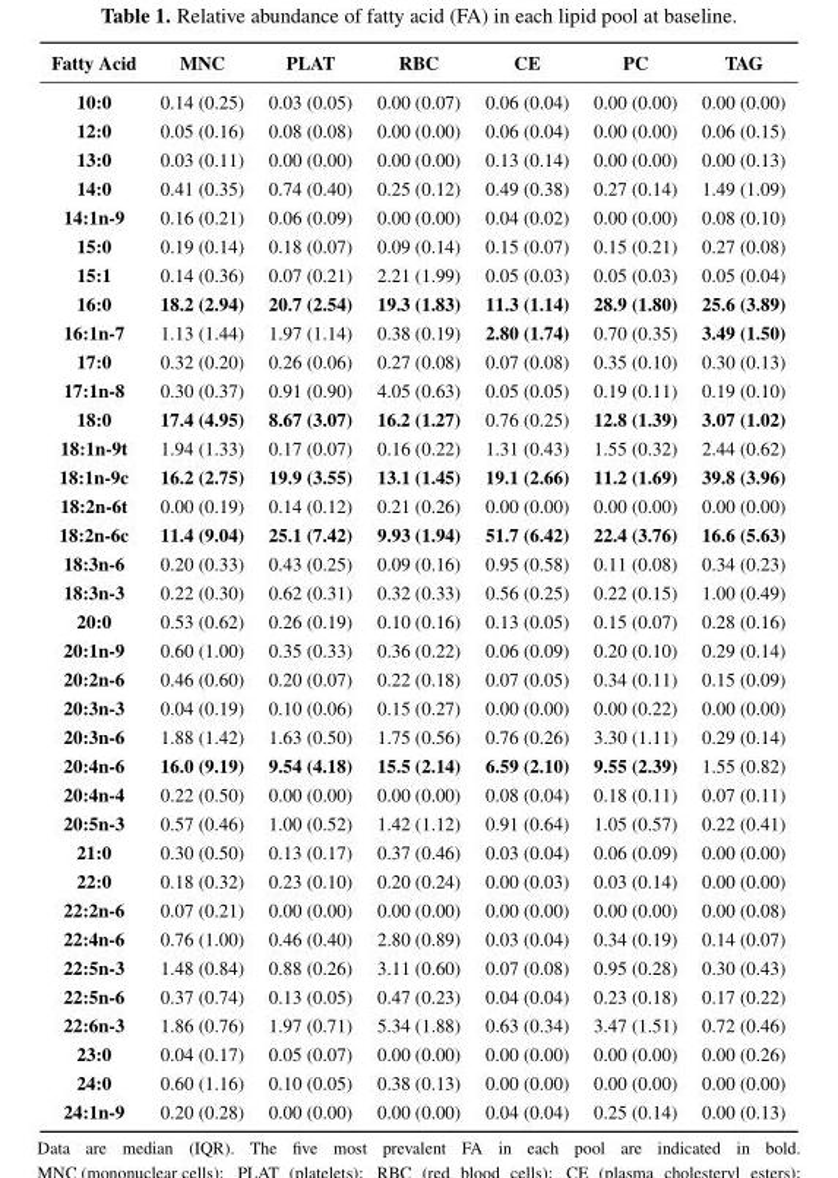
<table><thead><tr><td>Fatty Acid</td><td>MNC</td><td>PLAT</td><td>RBC</td><td>CE</td><td>PC</td><td>TAG</td></tr></thead><tbody><tr><td>10:0</td><td>0.14 (0.25)</td><td>0.03 (0.05)</td><td>0.00 (0.07)</td><td>0.06 (0.04)</td><td>0.00 (0.00)</td><td>0.00 (0.00)</td></tr><tr><td>12:0</td><td>0.05 (0.16)</td><td>0.08 (0.08)</td><td>0.00 (0.00)</td><td>0.06 (0.04)</td><td>0.00 (0.00)</td><td>0.06 (0.15)</td></tr><tr><td>13:0</td><td>0.03 (0.11)</td><td>0.00 (0.00)</td><td>0.00 (0.00)</td><td>0.13 (0.14)</td><td>0.00 (0.00)</td><td>0.00 (0.13)</td></tr><tr><td>14:0</td><td>0.41 (0.35)</td><td>0.74 (0.40)</td><td>0.25 (0.12)</td><td>0.49 (0.38)</td><td>0.27 (0.14)</td><td>1.49 (1.09)</td></tr><tr><td>14:1n-9</td><td>0.16 (0.21)</td><td>0.06 (0.09)</td><td>0.00 (0.00)</td><td>0.04 (0.02)</td><td>0.00 (0.00)</td><td>0.08 (0.10)</td></tr><tr><td>15:0</td><td>0.19 (0.14)</td><td>0.18 (0.07)</td><td>0.09 (0.14)</td><td>0.15 (0.07)</td><td>0.15 (0.21)</td><td>0.27 (0.08)</td></tr><tr><td>15:1</td><td>0.14 (0.36)</td><td>0.07 (0.21)</td><td>2.21 (1.99)</td><td>0.05 (0.03)</td><td>0.05 (0.03)</td><td>0.05 (0.04)</td></tr><tr><td>16:0</td><td>18.2 (2.94)</td><td>20.7 (2.54)</td><td>19.3 (1.83)</td><td>11.3 (1.14)</td><td>28.9 (1.80)</td><td>25.6 (3.89)</td></tr><tr><td>16:1n-7</td><td>1.13 (1.44)</td><td>1.97 (1.14)</td><td>0.38 (0.19)</td><td>2.80 (1.74)</td><td>0.70 (0.35)</td><td>3.49 (1.50)</td></tr><tr><td>17:0</td><td>0.32 (0.20)</td><td>0.26 (0.06)</td><td>0.27 (0.08)</td><td>0.07 (0.08)</td><td>0.35 (0.10)</td><td>0.30 (0.13)</td></tr><tr><td>17:1n-8</td><td>0.30 (0.37)</td><td>0.91 (0.90)</td><td>4.05 (0.63)</td><td>0.05 (0.05)</td><td>0.19 (0.11)</td><td>0.19 (0.10)</td></tr><tr><td>18:0</td><td>17.4 (4.95)</td><td>8.67 (3.07)</td><td>16.2 (1.27)</td><td>0.76 (0.25)</td><td>12.8 (1.39)</td><td>3.07 (1.02)</td></tr><tr><td>18:1n-9t</td><td>1.94 (1.33)</td><td>0.17 (0.07)</td><td>0.16 (0.22)</td><td>1.31 (0.43)</td><td>1.55 (0.32)</td><td>2.44 (0.62)</td></tr><tr><td>18:1n-9c</td><td>16.2 (2.75)</td><td>19.9 (3.55)</td><td>13.1 (1.45)</td><td>19.1 (2.66)</td><td>11.2 (1.69)</td><td>39.8 (3.96)</td></tr><tr><td>18:2n-6t</td><td>0.00 (0.19)</td><td>0.14 (0.12)</td><td>0.21 (0.26)</td><td>0.00 (0.00)</td><td>0.00 (0.00)</td><td>0.00 (0.00)</td></tr><tr><td>18:2n-6c</td><td>11.4 (9.04)</td><td>25.1 (7.42)</td><td>9.93 (1.94)</td><td>51.7 (6.42)</td><td>22.4 (3.76)</td><td>16.6 (5.63)</td></tr><tr><td>18:3n-6</td><td>0.20 (0.33)</td><td>0.43 (0.25)</td><td>0.09 (0.16)</td><td>0.95 (0.58)</td><td>0.11 (0.08)</td><td>0.34 (0.23)</td></tr><tr><td>18:3n-3</td><td>0.22 (0.30)</td><td>0.62 (0.31)</td><td>0.32 (0.33)</td><td>0.56 (0.25)</td><td>0.22 (0.15)</td><td>1.00 (0.49)</td></tr><tr><td>20:0</td><td>0.53 (0.62)</td><td>0.26 (0.19)</td><td>0.10 (0.16)</td><td>0.13 (0.05)</td><td>0.15 (0.07)</td><td>0.28 (0.16)</td></tr><tr><td>20:1n-9</td><td>0.60 (1.00)</td><td>0.35 (0.33)</td><td>0.36 (0.22)</td><td>0.06 (0.09)</td><td>0.20 (0.10)</td><td>0.29 (0.14)</td></tr><tr><td>20:2n-6</td><td>0.46 (0.60)</td><td>0.20 (0.07)</td><td>0.22 (0.18)</td><td>0.07 (0.05)</td><td>0.34 (0.11)</td><td>0.15 (0.09)</td></tr><tr><td>20:3n-3</td><td>0.04 (0.19)</td><td>0.10 (0.06)</td><td>0.15 (0.27)</td><td>0.00 (0.00)</td><td>0.00 (0.22)</td><td>0.00 (0.00)</td></tr><tr><td>20:3n-6</td><td>1.88 (1.42)</td><td>1.63 (0.50)</td><td>1.75 (0.56)</td><td>0.76 (0.26)</td><td>3.30 (1.11)</td><td>0.29 (0.14)</td></tr><tr><td>20:4n-6</td><td>16.0 (9.19)</td><td>9.54 (4.18)</td><td>15.5 (2.14)</td><td>6.59 (2.10)</td><td>9.55 (2.39)</td><td>1.55 (0.82)</td></tr><tr><td>20:4n-4</td><td>0.22 (0.50)</td><td>0.00 (0.00)</td><td>0.00 (0.00)</td><td>0.08 (0.04)</td><td>0.18 (0.11)</td><td>0.07 (0.11)</td></tr><tr><td>20:5n-3</td><td>0.57 (0.46)</td><td>1.00 (0.52)</td><td>1.42 (1.12)</td><td>0.91 (0.64)</td><td>1.05 (0.57)</td><td>0.22 (0.41)</td></tr><tr><td>21:0</td><td>0.30 (0.50)</td><td>0.13 (0.17)</td><td>0.37 (0.46)</td><td>0.03 (0.04)</td><td>0.06 (0.09)</td><td>0.00 (0.00)</td></tr><tr><td>22:0</td><td>0.18 (0.32)</td><td>0.23 (0.10)</td><td>0.20 (0.24)</td><td>0.00 (0.03)</td><td>0.03 (0.14)</td><td>0.00 (0.00)</td></tr><tr><td>22:2n-6</td><td>0.07 (0.21)</td><td>0.00 (0.00)</td><td>0.00 (0.00)</td><td>0.00 (0.00)</td><td>0.00 (0.00)</td><td>0.00 (0.08)</td></tr><tr><td>22:4n-6</td><td>0.76 (1.00)</td><td>0.46 (0.40)</td><td>2.80 (0.89)</td><td>0.03 (0.04)</td><td>0.34 (0.19)</td><td>0.14 (0.07)</td></tr><tr><td>22:5n-3</td><td>1.48 (0.84)</td><td>0.88 (0.26)</td><td>3.11 (0.60)</td><td>0.07 (0.08)</td><td>0.95 (0.28)</td><td>0.30 (0.43)</td></tr><tr><td>22:5n-6</td><td>0.37 (0.74)</td><td>0.13 (0.05)</td><td>0.47 (0.23)</td><td>0.04 (0.04)</td><td>0.23 (0.18)</td><td>0.17 (0.22)</td></tr><tr><td>22:6n-3</td><td>1.86 (0.76)</td><td>1.97 (0.71)</td><td>5.34 (1.88)</td><td>0.63 (0.34)</td><td>3.47 (1.51)</td><td>0.72 (0.46)</td></tr><tr><td>23:0</td><td>0.04 (0.17)</td><td>0.05 (0.07)</td><td>0.00 (0.00)</td><td>0.00 (0.00)</td><td>0.00 (0.00)</td><td>0.00 (0.26)</td></tr><tr><td>24:0</td><td>0.60 (1.16)</td><td>0.10 (0.05)</td><td>0.38 (0.13)</td><td>0.00 (0.00)</td><td>0.00 (0.00)</td><td>0.00 (0.00)</td></tr><tr><td>24:1n-9</td><td>0.20 (0.28)</td><td>0.00 (0.00)</td><td>0.00 (0.00)</td><td>0.04 (0.04)</td><td>0.25 (0.14)</td><td>0.00 (0.13)</td></tr></tbody></table>